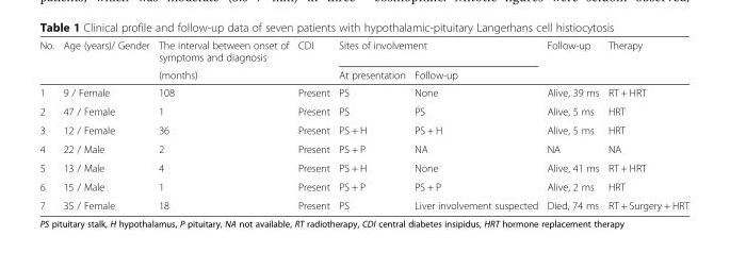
<table><thead><tr><td rowspan="2">No.</td><td rowspan="2">Age (years)/ Gender</td><td rowspan="2">The interval between onset of symptoms and diagnosis (months)</td><td rowspan="2">CDI</td><td colspan="2">Sites of involvement</td><td rowspan="2">Follow-up</td><td rowspan="2">Therapy</td></tr><tr><td>At presentation</td><td>Follow-up</td></tr></thead><tbody><tr><td>1</td><td>9 / Female</td><td>108</td><td>Present</td><td>PS</td><td>None</td><td>Alive, 39 ms</td><td>RT + HRT</td></tr><tr><td>2</td><td>47 / Female</td><td>1</td><td>Present</td><td>PS</td><td>PS</td><td>Alive, 5 ms</td><td>HRT</td></tr><tr><td>3</td><td>12 / Female</td><td>36</td><td>Present</td><td>PS + H</td><td>PS + H</td><td>Alive, 5 ms</td><td>HRT</td></tr><tr><td>4</td><td>22 / Male</td><td>2</td><td>Present</td><td>PS + P</td><td>NA</td><td>NA</td><td>NA</td></tr><tr><td>5</td><td>13 / Male</td><td>4</td><td>Present</td><td>PS + H</td><td>None</td><td>Alive, 41 ms</td><td>RT + HRT</td></tr><tr><td>6</td><td>15 / Male</td><td>1</td><td>Present</td><td>PS + P</td><td>PS + P</td><td>Alive, 2 ms</td><td>HRT</td></tr><tr><td>7</td><td>35 / Female</td><td>18</td><td>Present</td><td>PS</td><td>Liver involvement suspected</td><td>Died, 74 ms</td><td>RT + Surgery + HRT</td></tr></tbody></table>